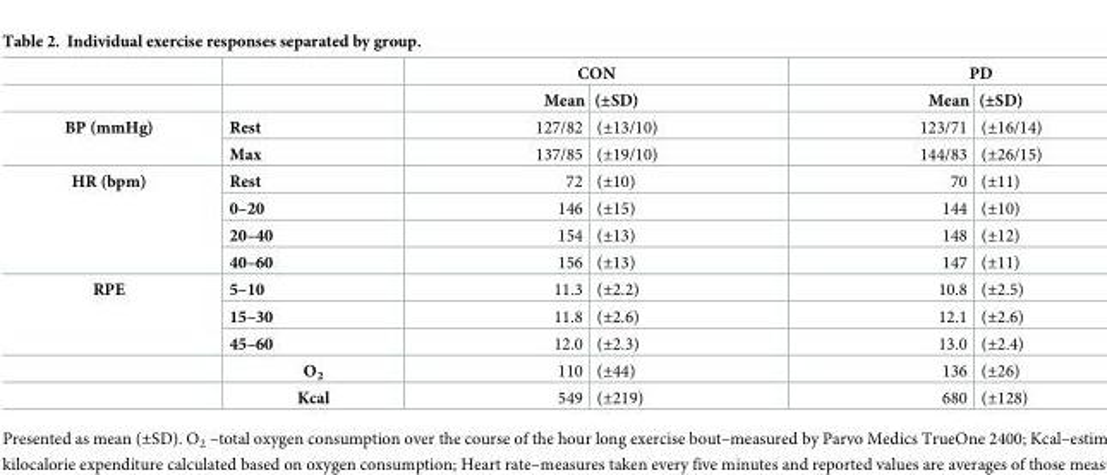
<table><thead><tr><td rowspan="2"></td><td rowspan="2"></td><td colspan="2">CON</td><td colspan="2">PD</td></tr><tr><td>Mean</td><td>(±SD)</td><td>Mean</td><td>(±SD)</td></tr></thead><tbody><tr><td rowspan="2">BP (mmHg)</td><td>Rest</td><td>127/82</td><td>(±13/10)</td><td>123/71</td><td>(±16/14)</td></tr><tr><td>Max</td><td>137/85</td><td>(±19/10)</td><td>144/83</td><td>(±26/15)</td></tr><tr><td rowspan="4">HR (bpm)</td><td>Rest</td><td>72</td><td>(±10)</td><td>70</td><td>(±11)</td></tr><tr><td>0–20</td><td>146</td><td>(±15)</td><td>144</td><td>(±10)</td></tr><tr><td>20–40</td><td>154</td><td>(±13)</td><td>148</td><td>(±12)</td></tr><tr><td>40–60</td><td>156</td><td>(±13)</td><td>147</td><td>(±11)</td></tr><tr><td rowspan="5">RPE</td><td>5–10</td><td>11.3</td><td>(±2.2)</td><td>10.8</td><td>(±2.5)</td></tr><tr><td>15–30</td><td>11.8</td><td>(±2.6)</td><td>12.1</td><td>(±2.6)</td></tr><tr><td>45–60</td><td>12.0</td><td>(±2.3)</td><td>13.0</td><td>(±2.4)</td></tr><tr><td>O<sub>2</sub></td><td>110</td><td>(±44)</td><td>136</td><td>(±26)</td></tr><tr><td>Kcal</td><td>549</td><td>(±219)</td><td>680</td><td>(±128)</td></tr></tbody></table>